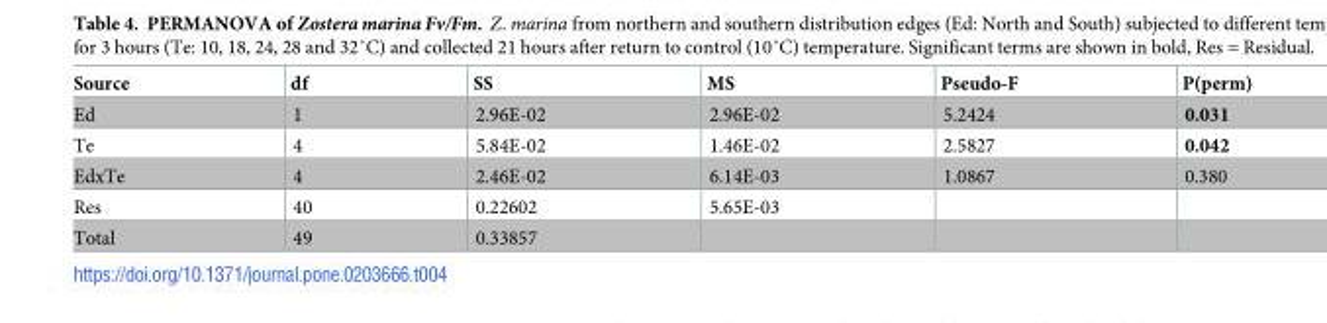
<table><thead><tr><td>Source</td><td>df</td><td>SS</td><td>MS</td><td>Pseudo-F</td><td>P(perm)</td></tr></thead><tbody><tr><td>Ed</td><td>1</td><td>2.96E-02</td><td>2.96E-02</td><td>5.2424</td><td>0.031</td></tr><tr><td>Te</td><td>4</td><td>5.84E-02</td><td>1.46E-02</td><td>2.5827</td><td>0.042</td></tr><tr><td>EdxTe</td><td>4</td><td>2.46E-02</td><td>6.14E-03</td><td>1.0867</td><td>0.380</td></tr><tr><td>Res</td><td>40</td><td>0.22602</td><td>5.65E-03</td><td></td><td></td></tr><tr><td>Total</td><td>49</td><td>0.33857</td><td></td><td></td><td></td></tr></tbody></table>